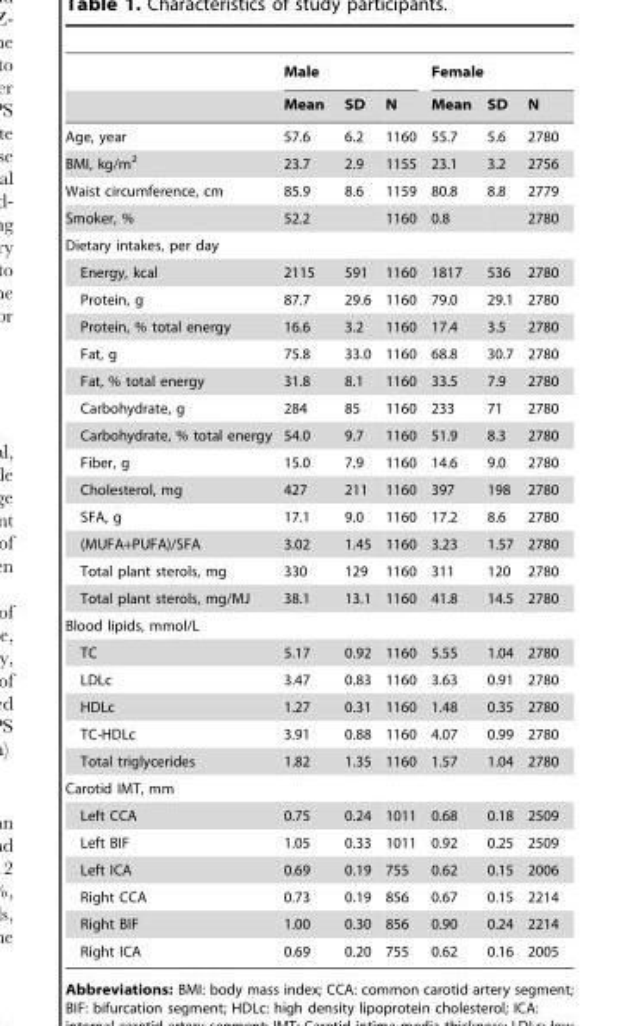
<table><thead><tr><td rowspan="2"></td><td colspan="3">Male</td><td colspan="3">Female</td></tr><tr><td>Mean</td><td>SD</td><td>N</td><td>Mean</td><td>SD</td><td>N</td></tr></thead><tbody><tr><td>Age, year</td><td>57.6</td><td>6.2</td><td>1160</td><td>55.7</td><td>5.6</td><td>2780</td></tr><tr><td>BMI, kg/m<sup>2</sup></td><td>23.7</td><td>2.9</td><td>1155</td><td>23.1</td><td>3.2</td><td>2756</td></tr><tr><td>Waist circumference, cm</td><td>85.9</td><td>8.6</td><td>1159</td><td>80.8</td><td>8.8</td><td>2779</td></tr><tr><td>Smoker, %</td><td>52.2</td><td></td><td>1160</td><td>0.8</td><td></td><td>2780</td></tr><tr><td colspan="7">Dietary intakes, per day</td></tr><tr><td>Energy, kcal</td><td>2115</td><td>591</td><td>1160</td><td>1817</td><td>536</td><td>2780</td></tr><tr><td>Protein, g</td><td>87.7</td><td>29.6</td><td>1160</td><td>79.0</td><td>29.1</td><td>2780</td></tr><tr><td>Protein, % total energy</td><td>16.6</td><td>3.2</td><td>1160</td><td>17.4</td><td>3.5</td><td>2780</td></tr><tr><td>Fat, g</td><td>75.8</td><td>33.0</td><td>1160</td><td>68.8</td><td>30.7</td><td>2780</td></tr><tr><td>Fat, % total energy</td><td>31.8</td><td>8.1</td><td>1160</td><td>33.5</td><td>7.9</td><td>2780</td></tr><tr><td>Carbohydrate, g</td><td>284</td><td>85</td><td>1160</td><td>233</td><td>71</td><td>2780</td></tr><tr><td>Carbohydrate, % total energy</td><td>54.0</td><td>9.7</td><td>1160</td><td>51.9</td><td>8.3</td><td>2780</td></tr><tr><td>Fiber, g</td><td>15.0</td><td>7.9</td><td>1160</td><td>14.6</td><td>9.0</td><td>2780</td></tr><tr><td>Cholesterol, mg</td><td>427</td><td>211</td><td>1160</td><td>397</td><td>198</td><td>2780</td></tr><tr><td>SFA, g</td><td>17.1</td><td>9.0</td><td>1160</td><td>17.2</td><td>8.6</td><td>2780</td></tr><tr><td>(MUFA+PUFA)/SFA</td><td>3.02</td><td>1.45</td><td>1160</td><td>3.23</td><td>1.57</td><td>2780</td></tr><tr><td>Total plant sterols, mg</td><td>330</td><td>129</td><td>1160</td><td>311</td><td>120</td><td>2780</td></tr><tr><td>Total plant sterols, mg/MJ</td><td>38.1</td><td>13.1</td><td>1160</td><td>41.8</td><td>14.5</td><td>2780</td></tr><tr><td colspan="7">Blood lipids, mmol/L</td></tr><tr><td>TC</td><td>5.17</td><td>0.92</td><td>1160</td><td>5.55</td><td>1.04</td><td>2780</td></tr><tr><td>LDLc</td><td>3.47</td><td>0.83</td><td>1160</td><td>3.63</td><td>0.91</td><td>2780</td></tr><tr><td>HDLc</td><td>1.27</td><td>0.31</td><td>1160</td><td>1.48</td><td>0.35</td><td>2780</td></tr><tr><td>TC-HDLc</td><td>3.91</td><td>0.88</td><td>1160</td><td>4.07</td><td>0.99</td><td>2780</td></tr><tr><td>Total triglycerides</td><td>1.82</td><td>1.35</td><td>1160</td><td>1.57</td><td>1.04</td><td>2780</td></tr><tr><td colspan="7">Carotid IMT, mm</td></tr><tr><td>Left CCA</td><td>0.75</td><td>0.24</td><td>1011</td><td>0.68</td><td>0.18</td><td>2509</td></tr><tr><td>Left BIF</td><td>1.05</td><td>0.33</td><td>1011</td><td>0.92</td><td>0.25</td><td>2509</td></tr><tr><td>Left ICA</td><td>0.69</td><td>0.19</td><td>755</td><td>0.62</td><td>0.15</td><td>2006</td></tr><tr><td>Right CCA</td><td>0.73</td><td>0.19</td><td>856</td><td>0.67</td><td>0.15</td><td>2214</td></tr><tr><td>Right BIF</td><td>1.00</td><td>0.30</td><td>856</td><td>0.90</td><td>0.24</td><td>2214</td></tr><tr><td>Right ICA</td><td>0.69</td><td>0.20</td><td>755</td><td>0.62</td><td>0.16</td><td>2005</td></tr></tbody></table>